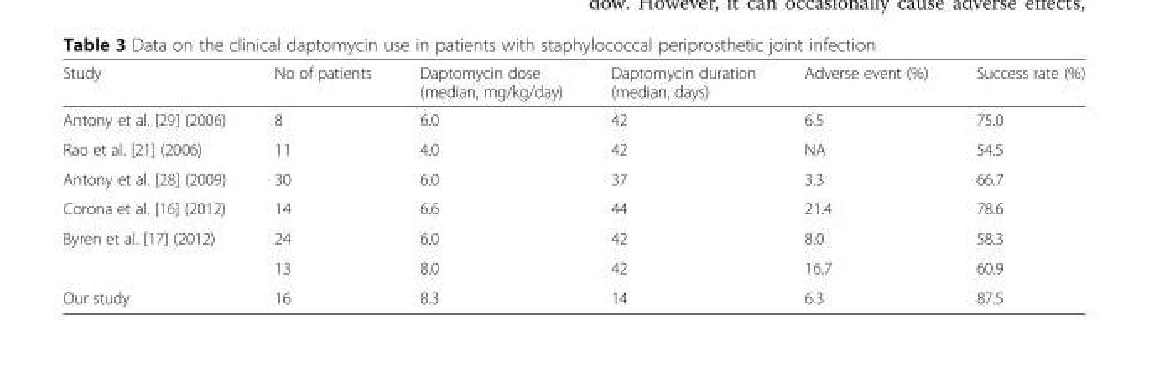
<table><thead><tr><td>Study</td><td>No of patients</td><td>Daptomycin dose (median, mg/kg/day)</td><td>Daptomycin duration (median, days)</td><td>Adverse event (%)</td><td>Success rate (%)</td></tr></thead><tbody><tr><td>Antony et al. [29] (2006)</td><td>8</td><td>6.0</td><td>42</td><td>6.5</td><td>75.0</td></tr><tr><td>Rao et al. [21] (2006)</td><td>11</td><td>4.0</td><td>42</td><td>NA</td><td>54.5</td></tr><tr><td>Antony et al. [28] (2009)</td><td>30</td><td>6.0</td><td>37</td><td>3.3</td><td>66.7</td></tr><tr><td>Corona et al. [16] (2012)</td><td>14</td><td>6.6</td><td>44</td><td>21.4</td><td>78.6</td></tr><tr><td rowspan="2">Byren et al. [17] (2012)</td><td>24</td><td>6.0</td><td>42</td><td>8.0</td><td>58.3</td></tr><tr><td>13</td><td>8.0</td><td>42</td><td>16.7</td><td>60.9</td></tr><tr><td>Our study</td><td>16</td><td>8.3</td><td>14</td><td>6.3</td><td>87.5</td></tr></tbody></table>